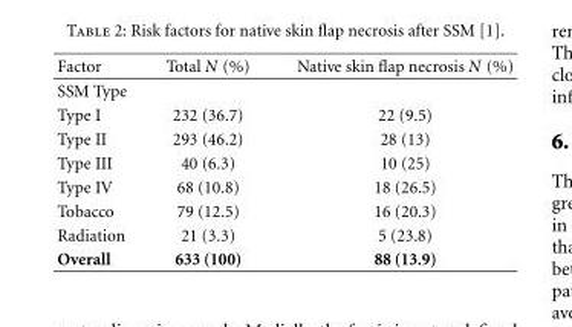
<table><thead><tr><td>Factor</td><td>Total N (%)</td><td>Native skin flap necrosis N (%)</td></tr></thead><tbody><tr><td colspan="3">SSM Type</td></tr><tr><td>Type I</td><td>232 (36.7)</td><td>22 (9.5)</td></tr><tr><td>Type II</td><td>293 (46.2)</td><td>28 (13)</td></tr><tr><td>Type III</td><td>40 (6.3)</td><td>10 (25)</td></tr><tr><td>Type IV</td><td>68 (10.8)</td><td>18 (26.5)</td></tr><tr><td>Tobacco</td><td>79 (12.5)</td><td>16 (20.3)</td></tr><tr><td>Radiation</td><td>21 (3.3)</td><td>5 (23.8)</td></tr><tr><td>Overall</td><td>633 (100)</td><td>88 (13.9)</td></tr></tbody></table>